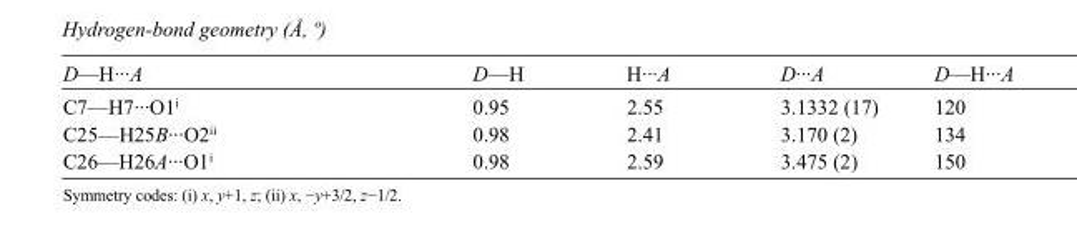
<table><tbody><tr><td>D—H···A</td><td>D—H</td><td>H···A</td><td>D···A</td><td>D—H···A</td></tr><tr><td>C7—H7···O1<sup>i</sup></td><td>0.95</td><td>2.55</td><td>3.1332 (17)</td><td>120</td></tr><tr><td>C25—H25B···O2<sup>ii</sup></td><td>0.98</td><td>2.41</td><td>3.170 (2)</td><td>134</td></tr><tr><td>C26—H26A···O1<sup>i</sup></td><td>0.98</td><td>2.59</td><td>3.475 (2)</td><td>150</td></tr></tbody></table>